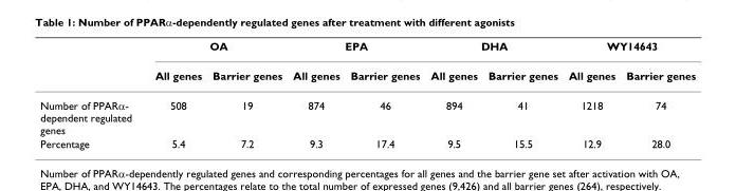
<table><thead><tr><td rowspan="2"></td><td colspan="2">OA</td><td colspan="2">EPA</td><td colspan="2">DHA</td><td colspan="2">WY14643</td></tr><tr><td>All genes</td><td>Barrier genes</td><td>All genes</td><td>Barrier genes</td><td>All genes</td><td>Barrier genes</td><td>All genes</td><td>Barrier genes</td></tr></thead><tbody><tr><td>Number of PPARα- dependent regulated genes</td><td>508</td><td>19</td><td>874</td><td>46</td><td>894</td><td>41</td><td>1218</td><td>74</td></tr><tr><td>Percentage</td><td>5.4</td><td>7.2</td><td>9.3</td><td>17.4</td><td>9.5</td><td>15.5</td><td>12.9</td><td>28.0</td></tr></tbody></table>